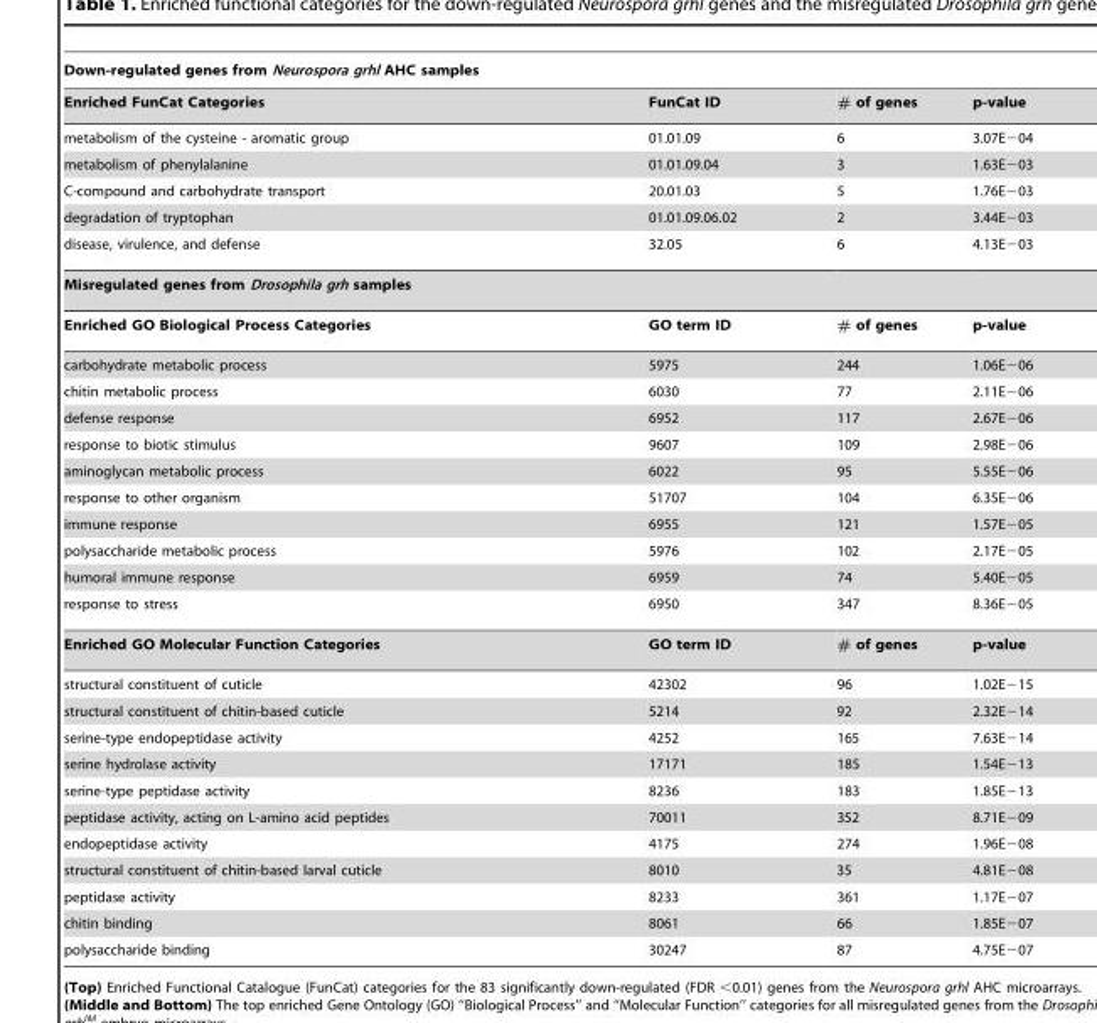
<table><thead><tr><td colspan="4">Down-regulated genes from Neurospora grhl AHC samples</td></tr><tr><td>Enriched FunCat Categories</td><td>FunCat ID</td><td># of genes</td><td>p-value</td></tr></thead><tbody><tr><td>metabolism of the cysteine - aromatic group</td><td>01.01.09</td><td>6</td><td>3.07E−04</td></tr><tr><td>metabolism of phenylalanine</td><td>01.01.09.04</td><td>3</td><td>1.63E−03</td></tr><tr><td>C-compound and carbohydrate transport</td><td>20.01.03</td><td>5</td><td>1.76E−03</td></tr><tr><td>degradation of tryptophan</td><td>01.01.09.06.02</td><td>2</td><td>3.44E−03</td></tr><tr><td>disease, virulence, and defense</td><td>32.05</td><td>6</td><td>4.13E−03</td></tr><tr><td colspan="4">Misregulated genes from Drosophila grh samples</td></tr><tr><td>Enriched GO Biological Process Categories</td><td>GO term ID</td><td># of genes</td><td>p-value</td></tr><tr><td>carbohydrate metabolic process</td><td>5975</td><td>244</td><td>1.06E−06</td></tr><tr><td>chitin metabolic process</td><td>6030</td><td>77</td><td>2.11E−06</td></tr><tr><td>defense response</td><td>6952</td><td>117</td><td>2.67E−06</td></tr><tr><td>response to biotic stimulus</td><td>9607</td><td>109</td><td>2.98E−06</td></tr><tr><td>aminoglycan metabolic process</td><td>6022</td><td>95</td><td>5.55E−06</td></tr><tr><td>response to other organism</td><td>51707</td><td>104</td><td>6.35E−06</td></tr><tr><td>immune response</td><td>6955</td><td>121</td><td>1.57E−05</td></tr><tr><td>polysaccharide metabolic process</td><td>5976</td><td>102</td><td>2.17E−05</td></tr><tr><td>humoral immune response</td><td>6959</td><td>74</td><td>5.40E−05</td></tr><tr><td>response to stress</td><td>6950</td><td>347</td><td>8.36E−05</td></tr><tr><td>Enriched GO Molecular Function Categories</td><td>GO term ID</td><td># of genes</td><td>p-value</td></tr><tr><td>structural constituent of cuticle</td><td>42302</td><td>96</td><td>1.02E−15</td></tr><tr><td>structural constituent of chitin-based cuticle</td><td>5214</td><td>92</td><td>2.32E−14</td></tr><tr><td>serine-type endopeptidase activity</td><td>4252</td><td>165</td><td>7.63E−14</td></tr><tr><td>serine hydrolase activity</td><td>17171</td><td>185</td><td>1.54E−13</td></tr><tr><td>serine-type peptidase activity</td><td>8236</td><td>183</td><td>1.85E−13</td></tr><tr><td>peptidase activity, acting on L-amino acid peptides</td><td>70011</td><td>352</td><td>8.71E−09</td></tr><tr><td>endopeptidase activity</td><td>4175</td><td>274</td><td>1.96E−08</td></tr><tr><td>structural constituent of chitin-based larval cuticle</td><td>8010</td><td>35</td><td>4.81E−08</td></tr><tr><td>peptidase activity</td><td>8233</td><td>361</td><td>1.17E−07</td></tr><tr><td>chitin binding</td><td>8061</td><td>66</td><td>1.85E−07</td></tr><tr><td>polysaccharide binding</td><td>30247</td><td>87</td><td>4.75E−07</td></tr></tbody></table>